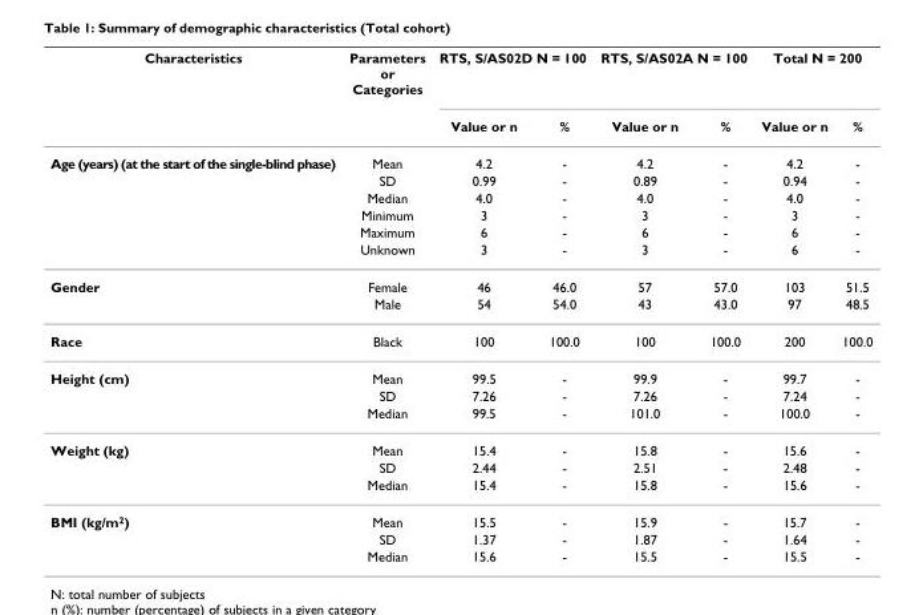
<table><thead><tr><td rowspan="2">Characteristics</td><td rowspan="2">Parameters or Categories</td><td colspan="2">RTS, S/AS02D N = 100</td><td colspan="2">RTS, S/AS02A N = 100</td><td colspan="2">Total N = 200</td></tr><tr><td>Value or n</td><td>%</td><td>Value or n</td><td>%</td><td>Value or n</td><td>%</td></tr></thead><tbody><tr><td rowspan="6">Age (years) (at the start of the single-blind phase)</td><td>Mean</td><td>4.2</td><td>-</td><td>4.2</td><td>-</td><td>4.2</td><td>-</td></tr><tr><td>SD</td><td>0.99</td><td>-</td><td>0.89</td><td>-</td><td>0.94</td><td>-</td></tr><tr><td>Median</td><td>4.0</td><td>-</td><td>4.0</td><td>-</td><td>4.0</td><td>-</td></tr><tr><td>Minimum</td><td>3</td><td>-</td><td>3</td><td>-</td><td>3</td><td>-</td></tr><tr><td>Maximum</td><td>6</td><td>-</td><td>6</td><td>-</td><td>6</td><td>-</td></tr><tr><td>Unknown</td><td>3</td><td>-</td><td>3</td><td>-</td><td>6</td><td>-</td></tr><tr><td rowspan="2">Gender</td><td>Female</td><td>46</td><td>46.0</td><td>57</td><td>57.0</td><td>103</td><td>51.5</td></tr><tr><td>Male</td><td>54</td><td>54.0</td><td>43</td><td>43.0</td><td>97</td><td>48.5</td></tr><tr><td>Race</td><td>Black</td><td>100</td><td>100.0</td><td>100</td><td>100.0</td><td>200</td><td>100.0</td></tr><tr><td rowspan="3">Height (cm)</td><td>Mean</td><td>99.5</td><td>-</td><td>99.9</td><td>-</td><td>99.7</td><td>-</td></tr><tr><td>SD</td><td>7.26</td><td>-</td><td>7.26</td><td>-</td><td>7.24</td><td>-</td></tr><tr><td>Median</td><td>99.5</td><td>-</td><td>101.0</td><td>-</td><td>100.0</td><td>-</td></tr><tr><td rowspan="3">Weight (kg)</td><td>Mean</td><td>15.4</td><td>-</td><td>15.8</td><td>-</td><td>15.6</td><td>-</td></tr><tr><td>SD</td><td>2.44</td><td>-</td><td>2.51</td><td>-</td><td>2.48</td><td>-</td></tr><tr><td>Median</td><td>15.4</td><td>-</td><td>15.8</td><td>-</td><td>15.6</td><td>-</td></tr><tr><td rowspan="3">BMI (kg/m<sup>2</sup>)</td><td>Mean</td><td>15.5</td><td>-</td><td>15.9</td><td>-</td><td>15.7</td><td>-</td></tr><tr><td>SD</td><td>1.37</td><td>-</td><td>1.87</td><td>-</td><td>1.64</td><td>-</td></tr><tr><td>Median</td><td>15.6</td><td>-</td><td>15.5</td><td>-</td><td>15.5</td><td>-</td></tr></tbody></table>